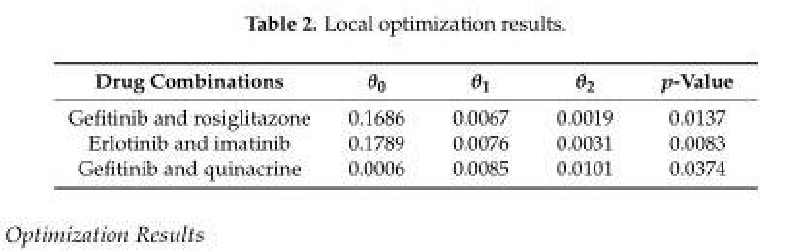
<table><thead><tr><td>Drug Combinations</td><td>θ<sub>0</sub></td><td>θ<sub>1</sub></td><td>θ<sub>2</sub></td><td>p-Value</td></tr></thead><tbody><tr><td>Gefitinib and rosiglitazone</td><td>0.1686</td><td>0.0067</td><td>0.0019</td><td>0.0137</td></tr><tr><td>Erlotinib and imatinib</td><td>0.1789</td><td>0.0076</td><td>0.0031</td><td>0.0083</td></tr><tr><td>Gefitinib and quinacrine</td><td>0.0006</td><td>0.0085</td><td>0.0101</td><td>0.0374</td></tr></tbody></table>